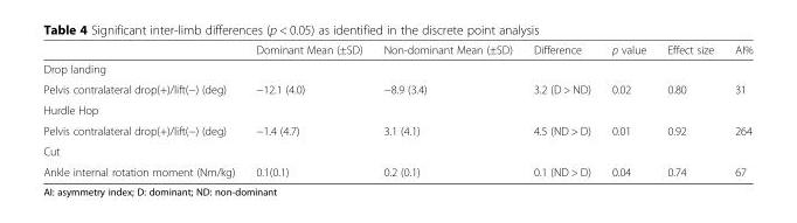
<table><thead><tr><td></td><td>Dominant Mean (±SD)</td><td>Non-dominant Mean (±SD)</td><td>Difference</td><td>p value</td><td>Effect size</td><td>AI%</td></tr></thead><tbody><tr><td colspan="7">Drop landing</td></tr><tr><td>Pelvis contralateral drop(+)/lift(−) (deg)</td><td>−12.1 (4.0)</td><td>−8.9 (3.4)</td><td>3.2 (D &gt; ND)</td><td>0.02</td><td>0.80</td><td>31</td></tr><tr><td colspan="7">Hurdle Hop</td></tr><tr><td>Pelvis contralateral drop(+)/lift(−) (deg)</td><td>−1.4 (4.7)</td><td>3.1 (4.1)</td><td>4.5 (ND &gt; D)</td><td>0.01</td><td>0.92</td><td>264</td></tr><tr><td colspan="7">Cut</td></tr><tr><td>Ankle internal rotation moment (Nm/kg)</td><td>0.1(0.1)</td><td>0.2 (0.1)</td><td>0.1 (ND &gt; D)</td><td>0.04</td><td>0.74</td><td>67</td></tr></tbody></table>